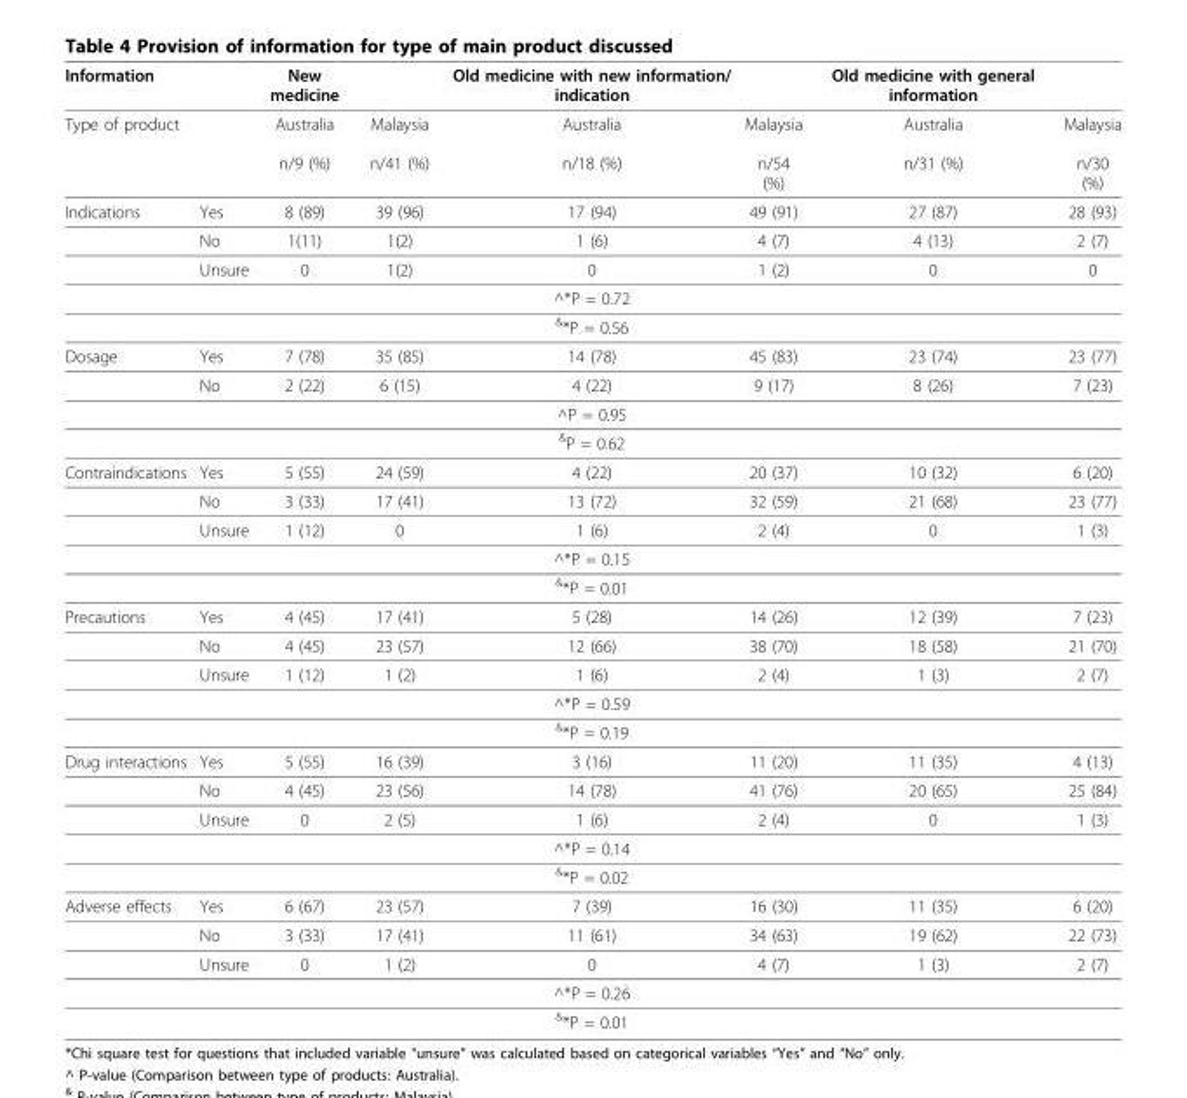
<table><thead><tr><td>Information</td><td></td><td>New medicine</td><td></td><td>Old medicine with new information/ indication</td><td></td><td>Old medicine with general information</td><td></td></tr></thead><tbody><tr><td>Type of product</td><td></td><td>Australia n/9 (%)</td><td>Malaysia n/41 (%)</td><td>Australia n/18 (%)</td><td>Malaysia n/54 (%)</td><td>Australia n/31 (%)</td><td>Malaysia n/30 (%)</td></tr><tr><td rowspan="5">Indications</td><td>Yes</td><td>8 (89)</td><td>39 (96)</td><td>17 (94)</td><td>49 (91)</td><td>27 (87)</td><td>28 (93)</td></tr><tr><td>No</td><td>1(11)</td><td>1(2)</td><td>1 (6)</td><td>4 (7)</td><td>4 (13)</td><td>2 (7)</td></tr><tr><td>Unsure</td><td>0</td><td>1(2)</td><td>0</td><td>1 (2)</td><td>0</td><td>0</td></tr><tr><td></td><td></td><td></td><td>^*P = 0.72</td><td></td><td></td><td></td></tr><tr><td></td><td></td><td></td><td><sup>&amp;</sup>*P = 0.56</td><td></td><td></td><td></td></tr><tr><td rowspan="4">Dosage</td><td>Yes</td><td>7 (78)</td><td>35 (85)</td><td>14 (78)</td><td>45 (83)</td><td>23 (74)</td><td>23 (77)</td></tr><tr><td>No</td><td>2 (22)</td><td>6 (15)</td><td>4 (22)</td><td>9 (17)</td><td>8 (26)</td><td>7 (23)</td></tr><tr><td></td><td></td><td></td><td>^P = 0.95</td><td></td><td></td><td></td></tr><tr><td></td><td></td><td></td><td><sup>&amp;</sup>P = 0.62</td><td></td><td></td><td></td></tr><tr><td rowspan="5">Contraindications</td><td>Yes</td><td>5 (55)</td><td>24 (59)</td><td>4 (22)</td><td>20 (37)</td><td>10 (32)</td><td>6 (20)</td></tr><tr><td>No</td><td>3 (33)</td><td>17 (41)</td><td>13 (72)</td><td>32 (59)</td><td>21 (68)</td><td>23 (77)</td></tr><tr><td>Unsure</td><td>1 (12)</td><td>0</td><td>1 (6)</td><td>2 (4)</td><td>0</td><td>1 (3)</td></tr><tr><td></td><td></td><td></td><td>^*P = 0.15</td><td></td><td></td><td></td></tr><tr><td></td><td></td><td></td><td><sup>&amp;</sup>*P = 0.01</td><td></td><td></td><td></td></tr><tr><td rowspan="5">Precautions</td><td>Yes</td><td>4 (45)</td><td>17 (41)</td><td>5 (28)</td><td>14 (26)</td><td>12 (39)</td><td>7 (23)</td></tr><tr><td>No</td><td>4 (45)</td><td>23 (57)</td><td>12 (66)</td><td>38 (70)</td><td>18 (58)</td><td>21 (70)</td></tr><tr><td>Unsure</td><td>1 (12)</td><td>1 (2)</td><td>1 (6)</td><td>2 (4)</td><td>1 (3)</td><td>2 (7)</td></tr><tr><td></td><td></td><td></td><td>^*P = 0.59</td><td></td><td></td><td></td></tr><tr><td></td><td></td><td></td><td><sup>&amp;</sup>*P = 0.19</td><td></td><td></td><td></td></tr><tr><td rowspan="5">Drug interactions</td><td>Yes</td><td>5 (55)</td><td>16 (39)</td><td>3 (16)</td><td>11 (20)</td><td>11 (35)</td><td>4 (13)</td></tr><tr><td>No</td><td>4 (45)</td><td>23 (56)</td><td>14 (78)</td><td>41 (76)</td><td>20 (65)</td><td>25 (84)</td></tr><tr><td>Unsure</td><td>0</td><td>2 (5)</td><td>1 (6)</td><td>2 (4)</td><td>0</td><td>1 (3)</td></tr><tr><td></td><td></td><td></td><td>^*P = 0.14</td><td></td><td></td><td></td></tr><tr><td></td><td></td><td></td><td><sup>&amp;</sup>*P = 0.02</td><td></td><td></td><td></td></tr><tr><td rowspan="5">Adverse effects</td><td>Yes</td><td>6 (67)</td><td>23 (57)</td><td>7 (39)</td><td>16 (30)</td><td>11 (35)</td><td>6 (20)</td></tr><tr><td>No</td><td>3 (33)</td><td>17 (41)</td><td>11 (61)</td><td>34 (63)</td><td>19 (62)</td><td>22 (73)</td></tr><tr><td>Unsure</td><td>0</td><td>1 (2)</td><td>0</td><td>4 (7)</td><td>1 (3)</td><td>2 (7)</td></tr><tr><td></td><td></td><td></td><td>^*P = 0.26</td><td></td><td></td><td></td></tr><tr><td></td><td></td><td></td><td><sup>&amp;</sup>*P = 0.01</td><td></td><td></td><td></td></tr></tbody></table>